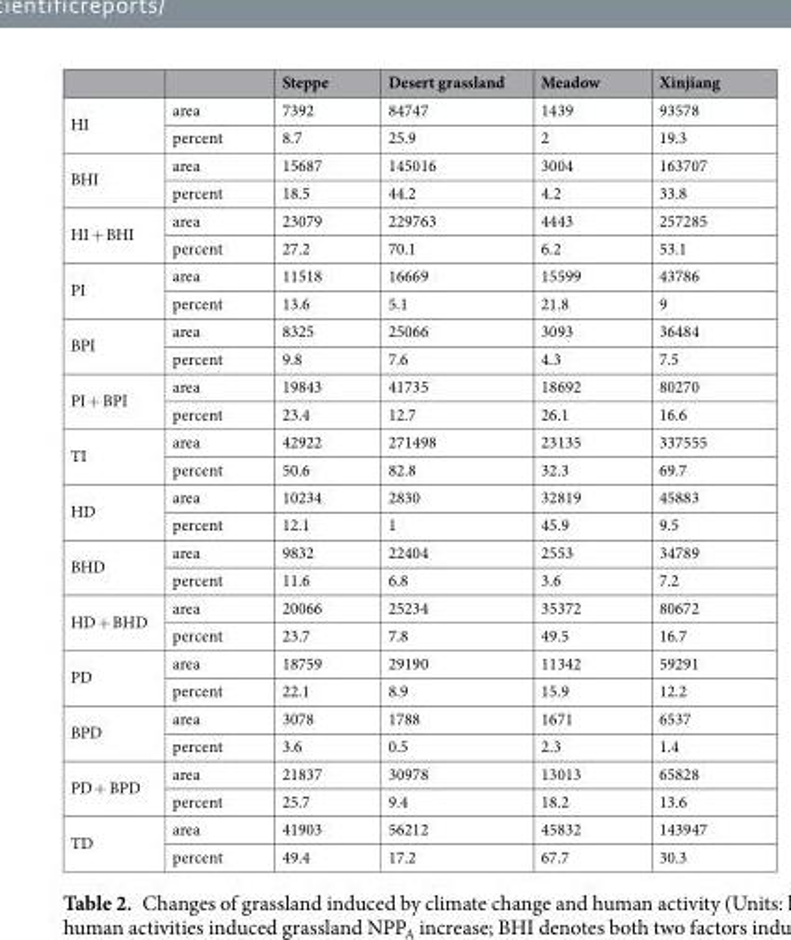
<table><thead><tr><td></td><td></td><td>Steppe</td><td>Desert grassland</td><td>Meadow</td><td>Xinjiang</td></tr></thead><tbody><tr><td rowspan="2">HI</td><td>area</td><td>7392</td><td>84747</td><td>1439</td><td>93578</td></tr><tr><td>percent</td><td>8.7</td><td>25.9</td><td>2</td><td>19.3</td></tr><tr><td rowspan="2">BHI</td><td>area</td><td>15687</td><td>145016</td><td>3004</td><td>163707</td></tr><tr><td>percent</td><td>18.5</td><td>44.2</td><td>4.2</td><td>33.8</td></tr><tr><td rowspan="2">HI + BHI</td><td>area</td><td>23079</td><td>229763</td><td>4443</td><td>257285</td></tr><tr><td>percent</td><td>27.2</td><td>70.1</td><td>6.2</td><td>53.1</td></tr><tr><td rowspan="2">PI</td><td>area</td><td>11518</td><td>16669</td><td>15599</td><td>43786</td></tr><tr><td>percent</td><td>13.6</td><td>5.1</td><td>21.8</td><td>9</td></tr><tr><td rowspan="2">BPI</td><td>area</td><td>8325</td><td>25066</td><td>3093</td><td>36484</td></tr><tr><td>percent</td><td>9.8</td><td>7.6</td><td>4.3</td><td>7.5</td></tr><tr><td rowspan="2">PI + BPI</td><td>area</td><td>19843</td><td>41735</td><td>18692</td><td>80270</td></tr><tr><td>percent</td><td>23.4</td><td>12.7</td><td>26.1</td><td>16.6</td></tr><tr><td rowspan="2">TI</td><td>area</td><td>42922</td><td>271498</td><td>23135</td><td>337555</td></tr><tr><td>percent</td><td>50.6</td><td>82.8</td><td>32.3</td><td>69.7</td></tr><tr><td rowspan="2">HD</td><td>area</td><td>10234</td><td>2830</td><td>32819</td><td>45883</td></tr><tr><td>percent</td><td>12.1</td><td>1</td><td>45.9</td><td>9.5</td></tr><tr><td rowspan="2">BHD</td><td>area</td><td>9832</td><td>22404</td><td>2553</td><td>34789</td></tr><tr><td>percent</td><td>11.6</td><td>6.8</td><td>3.6</td><td>7.2</td></tr><tr><td rowspan="2">HD + BHD</td><td>area</td><td>20066</td><td>25234</td><td>35372</td><td>80672</td></tr><tr><td>percent</td><td>23.7</td><td>7.8</td><td>49.5</td><td>16.7</td></tr><tr><td rowspan="2">PD</td><td>area</td><td>18759</td><td>29190</td><td>11342</td><td>59291</td></tr><tr><td>percent</td><td>22.1</td><td>8.9</td><td>15.9</td><td>12.2</td></tr><tr><td rowspan="2">BPD</td><td>area</td><td>3078</td><td>1788</td><td>1671</td><td>6537</td></tr><tr><td>percent</td><td>3.6</td><td>0.5</td><td>2.3</td><td>1.4</td></tr><tr><td rowspan="2">PD + BPD</td><td>area</td><td>21837</td><td>30978</td><td>13013</td><td>65828</td></tr><tr><td>percent</td><td>25.7</td><td>9.4</td><td>18.2</td><td>13.6</td></tr><tr><td rowspan="2">TD</td><td>area</td><td>41903</td><td>56212</td><td>45832</td><td>143947</td></tr><tr><td>percent</td><td>49.4</td><td>17.2</td><td>67.7</td><td>30.3</td></tr></tbody></table>